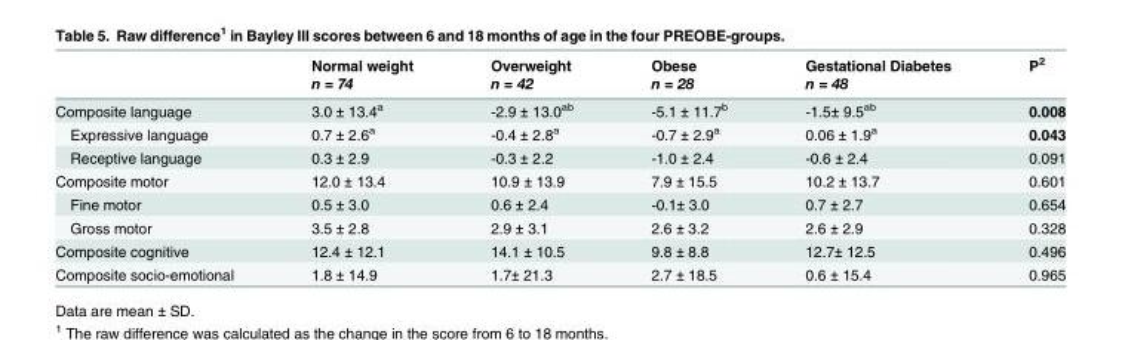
<table><thead><tr><td rowspan="2"></td><td rowspan="2">Normal weight n = 74</td><td rowspan="2">Overweight n = 42</td><td rowspan="2">Obese n = 28</td><td rowspan="2">Gestational Diabetes n = 48</td><td rowspan="2">P<sup>2</sup></td></tr><tr></tr></thead><tbody><tr><td>Composite language</td><td>3.0 ± 13.4<sup>a</sup></td><td>-2.9 ± 13.0<sup>ab</sup></td><td>-5.1 ± 11.7<sup>b</sup></td><td>-1.5± 9.5<sup>ab</sup></td><td>0.008</td></tr><tr><td>Expressive language</td><td>0.7 ± 2.6<sup>a</sup></td><td>-0.4 ± 2.8<sup>a</sup></td><td>-0.7 ± 2.9<sup>a</sup></td><td>0.06 ± 1.9<sup>a</sup></td><td>0.043</td></tr><tr><td>Receptive language</td><td>0.3 ± 2.9</td><td>-0.3 ± 2.2</td><td>-1.0 ± 2.4</td><td>-0.6 ± 2.4</td><td>0.091</td></tr><tr><td>Composite motor</td><td>12.0 ± 13.4</td><td>10.9 ± 13.9</td><td>7.9 ± 15.5</td><td>10.2 ± 13.7</td><td>0.601</td></tr><tr><td>Fine motor</td><td>0.5 ± 3.0</td><td>0.6 ± 2.4</td><td>-0.1± 3.0</td><td>0.7 ± 2.7</td><td>0.654</td></tr><tr><td>Gross motor</td><td>3.5 ± 2.8</td><td>2.9 ± 3.1</td><td>2.6 ± 3.2</td><td>2.6 ± 2.9</td><td>0.328</td></tr><tr><td>Composite cognitive</td><td>12.4 ± 12.1</td><td>14.1 ± 10.5</td><td>9.8 ± 8.8</td><td>12.7± 12.5</td><td>0.496</td></tr><tr><td>Composite socio-emotional</td><td>1.8 ± 14.9</td><td>1.7± 21.3</td><td>2.7 ± 18.5</td><td>0.6 ± 15.4</td><td>0.965</td></tr></tbody></table>